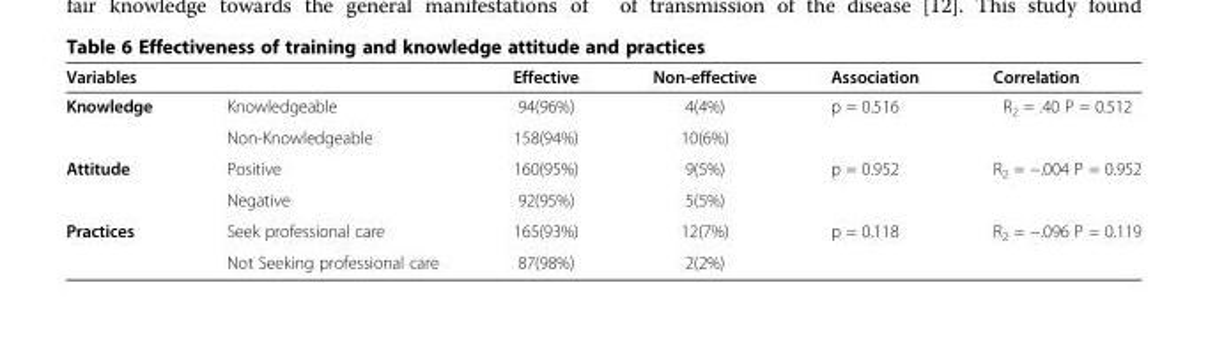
<table><thead><tr><td>Variables</td><td></td><td>Effective</td><td>Non-effective</td><td>Association</td><td>Correlation</td></tr></thead><tbody><tr><td rowspan="2">Knowledge</td><td>Knowledgeable</td><td>94(96%)</td><td>4(4%)</td><td>p = 0.516</td><td>R<sub>2</sub> = .40 P = 0.512</td></tr><tr><td>Non-Knowledgeable</td><td>158(94%)</td><td>10(6%)</td><td></td><td></td></tr><tr><td rowspan="2">Attitude</td><td>Positive</td><td>160(95%)</td><td>9(5%)</td><td>p = 0.952</td><td>R<sub>2</sub> = −.004 P = 0.952</td></tr><tr><td>Negative</td><td>92(95%)</td><td>5(5%)</td><td></td><td></td></tr><tr><td rowspan="2">Practices</td><td>Seek professional care</td><td>165(93%)</td><td>12(7%)</td><td>p = 0.118</td><td>R<sub>2</sub> = −.096 P = 0.119</td></tr><tr><td>Not Seeking professional care</td><td>87(98%)</td><td>2(2%)</td><td></td><td></td></tr></tbody></table>